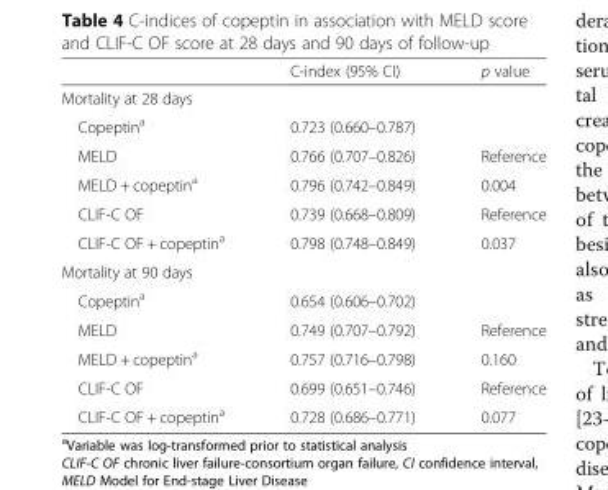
<table><thead><tr><td></td><td>C-index (95% CI)</td><td>p value</td></tr></thead><tbody><tr><td colspan="3">Mortality at 28 days</td></tr><tr><td>Copeptin<sup>a</sup></td><td>0.723 (0.660–0.787)</td><td></td></tr><tr><td>MELD</td><td>0.766 (0.707–0.826)</td><td>Reference</td></tr><tr><td>MELD + copeptin<sup>a</sup></td><td>0.796 (0.742–0.849)</td><td>0.004</td></tr><tr><td>CLIF-C OF</td><td>0.739 (0.668–0.809)</td><td>Reference</td></tr><tr><td>CLIF-C OF + copeptin<sup>a</sup></td><td>0.798 (0.748–0.849)</td><td>0.037</td></tr><tr><td colspan="3">Mortality at 90 days</td></tr><tr><td>Copeptin<sup>a</sup></td><td>0.654 (0.606–0.702)</td><td></td></tr><tr><td>MELD</td><td>0.749 (0.707–0.792)</td><td>Reference</td></tr><tr><td>MELD + copeptin<sup>a</sup></td><td>0.757 (0.716–0.798)</td><td>0.160</td></tr><tr><td>CLIF-C OF</td><td>0.699 (0.651–0.746)</td><td>Reference</td></tr><tr><td>CLIF-C OF + copeptin<sup>a</sup></td><td>0.728 (0.686–0.771)</td><td>0.077</td></tr></tbody></table>